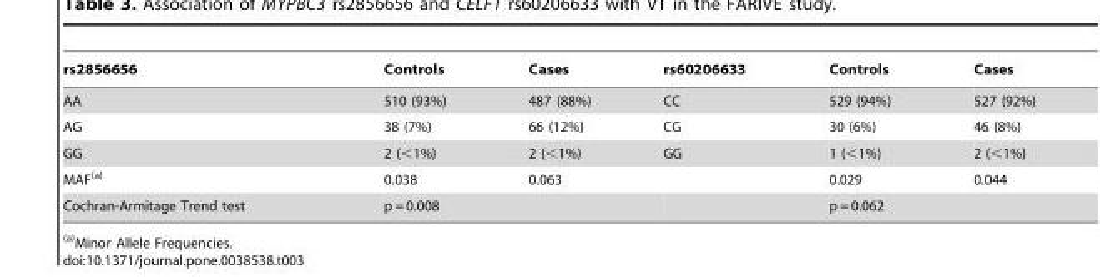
<table><thead><tr><td>rs2856656</td><td>Controls</td><td>Cases</td><td>rs60206633</td><td>Controls</td><td>Cases</td></tr></thead><tbody><tr><td>AA</td><td>510 (93%)</td><td>487 (88%)</td><td>CC</td><td>529 (94%)</td><td>527 (92%)</td></tr><tr><td>AG</td><td>38 (7%)</td><td>66 (12%)</td><td>CG</td><td>30 (6%)</td><td>46 (8%)</td></tr><tr><td>GG</td><td>2 (&lt;1%)</td><td>2 (&lt;1%)</td><td>GG</td><td>1 (&lt;1%)</td><td>2 (&lt;1%)</td></tr><tr><td>MAF(a)</td><td>0.038</td><td>0.063</td><td></td><td>0.029</td><td>0.044</td></tr><tr><td>Cochran-Armitage Trend test</td><td colspan="2">p = 0.008</td><td></td><td colspan="2">p = 0.062</td></tr></tbody></table>